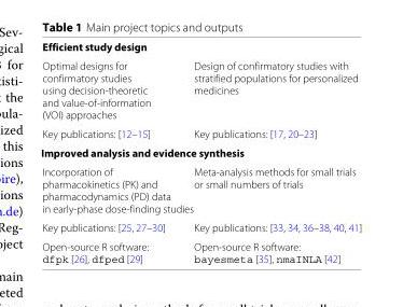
<table><tbody><tr><td colspan="2">Efficient study design</td></tr><tr><td>Optimal designs for confirmatory studies using decision-theoretic and value-of-information (VOI) approaches</td><td>Design of confirmatory studies with stratified populations for personalized medicines</td></tr><tr><td>Key publications: [12–15]</td><td>Key publications: [17, 20–23]</td></tr><tr><td colspan="2">Improved analysis and evidence synthesis</td></tr><tr><td>Incorporation of pharmacokinetics (PK) and pharmacodynamics (PD) data in early-phase dose-finding studies</td><td>Meta-analysis methods for small trials or small numbers of trials</td></tr><tr><td>Key publications: [25, 27–30]</td><td>Key publications: [33, 34, 36–38, 40, 41]</td></tr><tr><td>Open-source R software: dfpk [26], dfped [29]</td><td>Open-source R software: bayesmeta [35], nmaINLA [42]</td></tr></tbody></table>